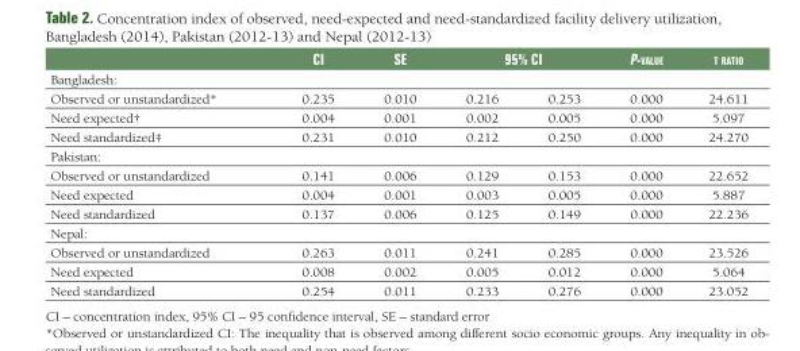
<table><thead><tr><td></td><td>ci</td><td>se</td><td colspan="2">95% ci</td><td>P-value</td><td>t ratio</td></tr><tr><td colspan="7">Bangladesh:</td></tr><tr><td>Observed or unstandardized*</td><td>0.235</td><td>0.010</td><td>0.216</td><td>0.253</td><td>0.000</td><td>24.611</td></tr></thead><tbody><tr><td>Need expected†</td><td>0.004</td><td>0.001</td><td>0.002</td><td>0.005</td><td>0.000</td><td>5.097</td></tr><tr><td>Need standardized‡</td><td>0.231</td><td>0.010</td><td>0.212</td><td>0.250</td><td>0.000</td><td>24.270</td></tr><tr><td colspan="7">Pakistan:</td></tr><tr><td>Observed or unstandardized</td><td>0.141</td><td>0.006</td><td>0.129</td><td>0.153</td><td>0.000</td><td>22.652</td></tr><tr><td>Need expected</td><td>0.004</td><td>0.001</td><td>0.003</td><td>0.005</td><td>0.000</td><td>5.887</td></tr><tr><td>Need standardized</td><td>0.137</td><td>0.006</td><td>0.125</td><td>0.149</td><td>0.000</td><td>22.236</td></tr><tr><td colspan="7">Nepal:</td></tr><tr><td>Observed or unstandardized</td><td>0.263</td><td>0.011</td><td>0.241</td><td>0.285</td><td>0.000</td><td>23.526</td></tr><tr><td>Need expected</td><td>0.008</td><td>0.002</td><td>0.005</td><td>0.012</td><td>0.000</td><td>5.064</td></tr><tr><td>Need standardized</td><td>0.254</td><td>0.011</td><td>0.233</td><td>0.276</td><td>0.000</td><td>23.052</td></tr></tbody></table>